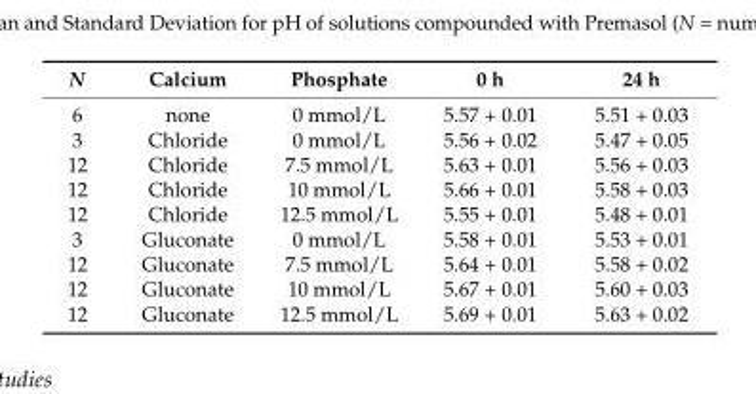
<table><thead><tr><td>N</td><td>Calcium</td><td>Phosphate</td><td>0 h</td><td>24 h</td></tr></thead><tbody><tr><td>6</td><td>none</td><td>0 mmol/L</td><td>5.57 + 0.01</td><td>5.51 + 0.03</td></tr><tr><td>3</td><td>Chloride</td><td>0 mmol/L</td><td>5.56 + 0.02</td><td>5.47 + 0.05</td></tr><tr><td>12</td><td>Chloride</td><td>7.5 mmol/L</td><td>5.63 + 0.01</td><td>5.56 + 0.03</td></tr><tr><td>12</td><td>Chloride</td><td>10 mmol/L</td><td>5.66 + 0.01</td><td>5.58 + 0.03</td></tr><tr><td>12</td><td>Chloride</td><td>12.5 mmol/L</td><td>5.55 + 0.01</td><td>5.48 + 0.01</td></tr><tr><td>3</td><td>Gluconate</td><td>0 mmol/L</td><td>5.58 + 0.01</td><td>5.53 + 0.01</td></tr><tr><td>12</td><td>Gluconate</td><td>7.5 mmol/L</td><td>5.64 + 0.01</td><td>5.58 + 0.02</td></tr><tr><td>12</td><td>Gluconate</td><td>10 mmol/L</td><td>5.67 + 0.01</td><td>5.60 + 0.03</td></tr><tr><td>12</td><td>Gluconate</td><td>12.5 mmol/L</td><td>5.69 + 0.01</td><td>5.63 + 0.02</td></tr></tbody></table>